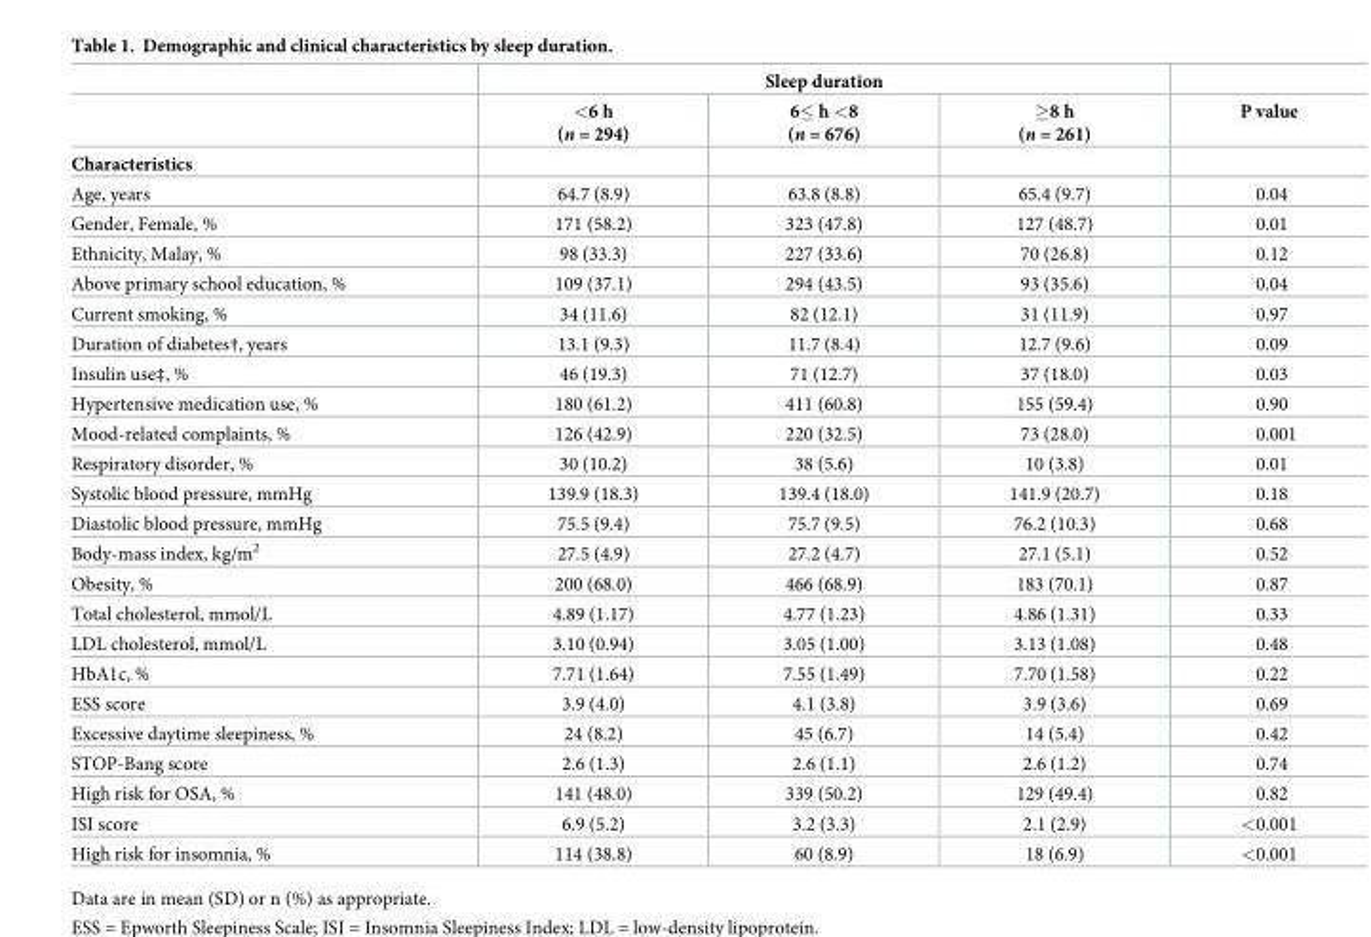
<table><thead><tr><td rowspan="2"></td><td colspan="3">Sleep duration</td><td rowspan="2">P value</td></tr><tr><td>&lt;6 h (n = 294)</td><td>6≤ h &lt;8 (n = 676)</td><td>≥8 h (n = 261)</td></tr></thead><tbody><tr><td colspan="5">Characteristics</td></tr><tr><td>Age, years</td><td>64.7 (8.9)</td><td>63.8 (8.8)</td><td>65.4 (9.7)</td><td>0.04</td></tr><tr><td>Gender, Female, %</td><td>171 (58.2)</td><td>323 (47.8)</td><td>127 (48.7)</td><td>0.01</td></tr><tr><td>Ethnicity, Malay, %</td><td>98 (33.3)</td><td>227 (33.6)</td><td>70 (26.8)</td><td>0.12</td></tr><tr><td>Above primary school education, %</td><td>109 (37.1)</td><td>294 (43.5)</td><td>93 (35.6)</td><td>0.04</td></tr><tr><td>Current smoking, %</td><td>34 (11.6)</td><td>82 (12.1)</td><td>31 (11.9)</td><td>0.97</td></tr><tr><td>Duration of diabetes†, years</td><td>13.1 (9.3)</td><td>11.7 (8.4)</td><td>12.7 (9.6)</td><td>0.09</td></tr><tr><td>Insulin use‡, %</td><td>46 (19.3)</td><td>71 (12.7)</td><td>37 (18.0)</td><td>0.03</td></tr><tr><td>Hypertensive medication use, %</td><td>180 (61.2)</td><td>411 (60.8)</td><td>155 (59.4)</td><td>0.90</td></tr><tr><td>Mood-related complaints, %</td><td>126 (42.9)</td><td>220 (32.5)</td><td>73 (28.0)</td><td>0.001</td></tr><tr><td>Respiratory disorder, %</td><td>30 (10.2)</td><td>38 (5.6)</td><td>10 (3.8)</td><td>0.01</td></tr><tr><td>Systolic blood pressure, mmHg</td><td>139.9 (18.3)</td><td>139.4 (18.0)</td><td>141.9 (20.7)</td><td>0.18</td></tr><tr><td>Diastolic blood pressure, mmHg</td><td>75.5 (9.4)</td><td>75.7 (9.5)</td><td>76.2 (10.3)</td><td>0.68</td></tr><tr><td>Body-mass index, kg/m<sup>2</sup></td><td>27.5 (4.9)</td><td>27.2 (4.7)</td><td>27.1 (5.1)</td><td>0.52</td></tr><tr><td>Obesity, %</td><td>200 (68.0)</td><td>466 (68.9)</td><td>183 (70.1)</td><td>0.87</td></tr><tr><td>Total cholesterol, mmol/L</td><td>4.89 (1.17)</td><td>4.77 (1.23)</td><td>4.86 (1.31)</td><td>0.33</td></tr><tr><td>LDL cholesterol, mmol/L</td><td>3.10 (0.94)</td><td>3.05 (1.00)</td><td>3.13 (1.08)</td><td>0.48</td></tr><tr><td>HbA1c, %</td><td>7.71 (1.64)</td><td>7.55 (1.49)</td><td>7.70 (1.58)</td><td>0.22</td></tr><tr><td>ESS score</td><td>3.9 (4.0)</td><td>4.1 (3.8)</td><td>3.9 (3.6)</td><td>0.69</td></tr><tr><td>Excessive daytime sleepiness, %</td><td>24 (8.2)</td><td>45 (6.7)</td><td>14 (5.4)</td><td>0.42</td></tr><tr><td>STOP-Bang score</td><td>2.6 (1.3)</td><td>2.6 (1.1)</td><td>2.6 (1.2)</td><td>0.74</td></tr><tr><td>High risk for OSA, %</td><td>141 (48.0)</td><td>339 (50.2)</td><td>129 (49.4)</td><td>0.82</td></tr><tr><td>ISI score</td><td>6.9 (5.2)</td><td>3.2 (3.3)</td><td>2.1 (2.9)</td><td>&lt;0.001</td></tr><tr><td>High risk for insomnia, %</td><td>114 (38.8)</td><td>60 (8.9)</td><td>18 (6.9)</td><td>&lt;0.001</td></tr></tbody></table>